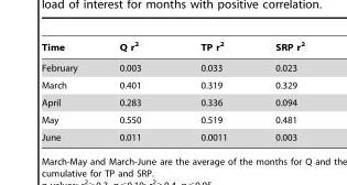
<table><thead><tr><td>Time</td><td>Q r<sup>2</sup></td><td>TP r<sup>2</sup></td><td>SRP r<sup>2</sup></td></tr></thead><tbody><tr><td>February</td><td>0.003</td><td>0.033</td><td>0.023</td></tr><tr><td>March</td><td>0.401</td><td>0.319</td><td>0.329</td></tr><tr><td>April</td><td>0.283</td><td>0.336</td><td>0.094</td></tr><tr><td>May</td><td>0.550</td><td>0.519</td><td>0.481</td></tr><tr><td>June</td><td>0.011</td><td>0.0011</td><td>0.003</td></tr></tbody></table>